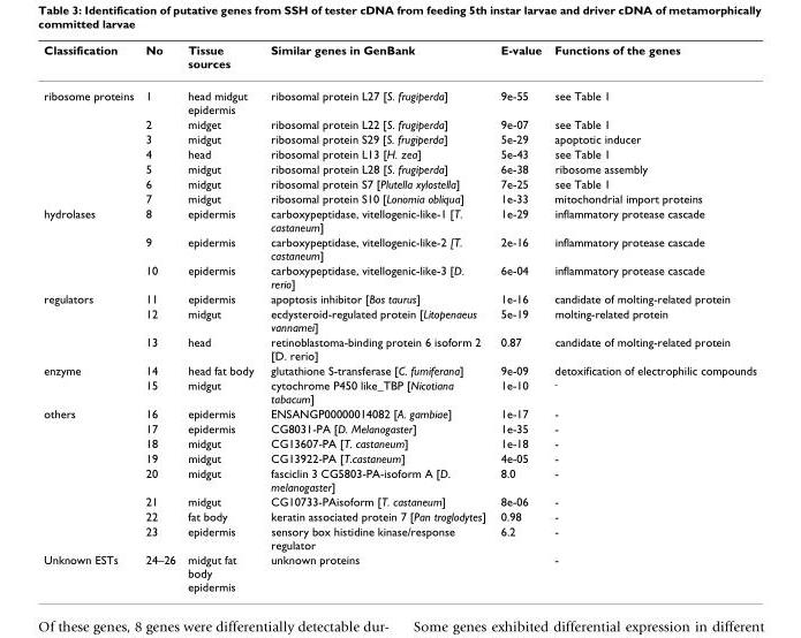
<table><thead><tr><td>Classification</td><td>No</td><td>Tissue sources</td><td>Similar genes in GenBank</td><td>E-value</td><td>Functions of the genes</td></tr></thead><tbody><tr><td rowspan="7">ribosome proteins</td><td>1</td><td>head midgut epidermis</td><td>ribosomal protein L27 [S. frugiperda]</td><td>9e-55</td><td>see Table 1</td></tr><tr><td>2</td><td>midget</td><td>ribosomal protein L22 [S. frugiperda]</td><td>9e-07</td><td>see Table 1</td></tr><tr><td>3</td><td>midgut</td><td>ribosomal protein S29 [S. frugiperda]</td><td>5e-29</td><td>apoptotic inducer</td></tr><tr><td>4</td><td>head</td><td>ribosomal protein L13 [H. zea]</td><td>5e-43</td><td>see Table 1</td></tr><tr><td>5</td><td>midgut</td><td>ribosomal protein L28 [S. frugiperda]</td><td>6e-38</td><td>ribosome assembly</td></tr><tr><td>6</td><td>midgut</td><td>ribosomal protein S7 [Plutella xylostella]</td><td>7e-25</td><td>see Table 1</td></tr><tr><td>7</td><td>midgut</td><td>ribosomal protein S10 [Lonomia obliqua]</td><td>1e-33</td><td>mitochondrial import proteins</td></tr><tr><td rowspan="3">hydrolases</td><td>8</td><td>epidermis</td><td>carboxypeptidase, vitellogenic-like-1 [T. castaneum]</td><td>1e-29</td><td>inflammatory protease cascade</td></tr><tr><td>9</td><td>epidermis</td><td>carboxypeptidase, vitellogenic-like-2 [T. castaneum]</td><td>2e-16</td><td>inflammatory protease cascade</td></tr><tr><td>10</td><td>epidermis</td><td>carboxypeptidase, vitellogenic-like-3 [D. rerio]</td><td>6e-04</td><td>inflammatory protease cascade</td></tr><tr><td rowspan="3">regulators</td><td>11</td><td>epidermis</td><td>apoptosis inhibitor [Bos taurus]</td><td>1e-16</td><td>candidate of molting-related protein</td></tr><tr><td>12</td><td>midgut</td><td>ecdysteroid-regulated protein [Litopenaeus vannamei]</td><td>5e-19</td><td>molting-related protein</td></tr><tr><td>13</td><td>head</td><td>retinoblastoma-binding protein 6 isoform 2 [D. rerio]</td><td>0.87</td><td>candidate of molting-related protein</td></tr><tr><td rowspan="2">enzyme</td><td>14</td><td>head fat body</td><td>glutathione S-transferase [C. fumiferana]</td><td>9e-09</td><td>detoxification of electrophilic compounds</td></tr><tr><td>15</td><td>midgut</td><td>cytochrome P450 like_TBP [Nicotiana tabacum]</td><td>1e-10</td><td><sup>-</sup></td></tr><tr><td rowspan="8">others</td><td>16</td><td>epidermis</td><td>ENSANGP00000014082 [A. gambiae]</td><td>1e-17</td><td>-</td></tr><tr><td>17</td><td>epidermis</td><td>CG8031-PA [D. Melanogaster]</td><td>1e-35</td><td>-</td></tr><tr><td>18</td><td>midgut</td><td>CG13607-PA [T. castaneum]</td><td>1e-18</td><td>-</td></tr><tr><td>19</td><td>midgut</td><td>CG13922-PA [T.castaneum]</td><td>4e-05</td><td>-</td></tr><tr><td>20</td><td>midgut</td><td>fasciclin 3 CG5803-PA-isoform A [D. melanogaster]</td><td>8.0</td><td>-</td></tr><tr><td>21</td><td>midgut</td><td>CG10733-PAisoform [T. castaneum]</td><td>8e-06</td><td>-</td></tr><tr><td>22</td><td>fat body</td><td>keratin associated protein 7 [Pan troglodytes]</td><td>0.98</td><td>-</td></tr><tr><td>23</td><td>epidermis</td><td>sensory box histidine kinase/response regulator</td><td>6.2</td><td>-</td></tr><tr><td>Unknown ESTs</td><td>24–26</td><td>midgut fat body epidermis</td><td>unknown proteins</td><td></td><td>-</td></tr></tbody></table>